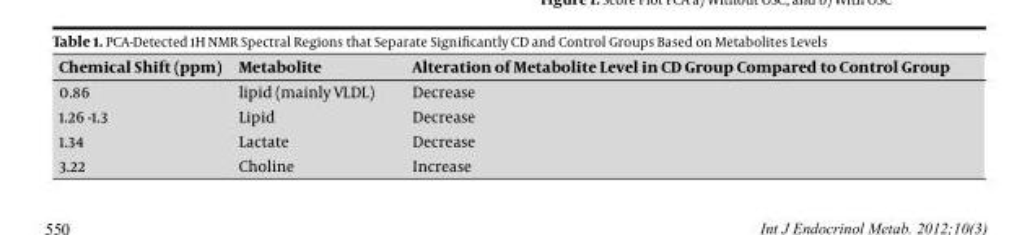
<table><thead><tr><td>Chemical Shift (ppm)</td><td>Metabolite</td><td>Alteration of Metabolite Level in CD Group Compared to Control Group</td></tr></thead><tbody><tr><td>0.86</td><td>lipid (mainly VLDL)</td><td>Decrease</td></tr><tr><td>1.26 -1.3</td><td>Lipid</td><td>Decrease</td></tr><tr><td>1.34</td><td>Lactate</td><td>Decrease</td></tr><tr><td>3.22</td><td>Choline</td><td>Increase</td></tr></tbody></table>